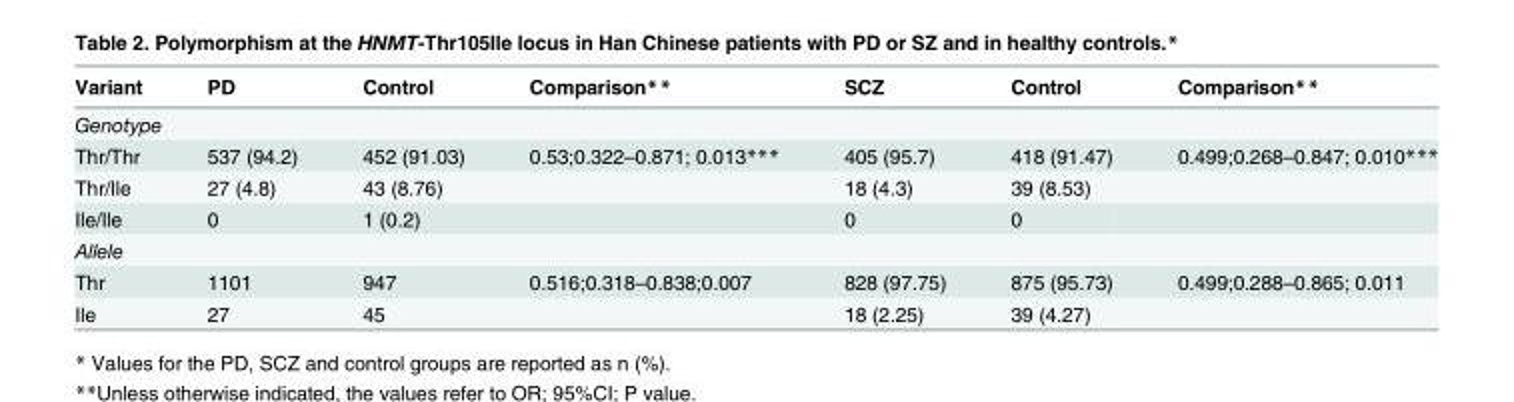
<table><thead><tr><td>Variant</td><td>PD</td><td>Control</td><td>Comparison**</td><td>SCZ</td><td>Control</td><td>Comparison**</td></tr></thead><tbody><tr><td colspan="7">Genotype</td></tr><tr><td>Thr/Thr</td><td>537 (94.2)</td><td>452 (91.03)</td><td>0.53;0.322–0.871; 0.013***</td><td>405 (95.7)</td><td>418 (91.47)</td><td>0.499;0.268–0.847; 0.010***</td></tr><tr><td>Thr/Ile</td><td>27 (4.8)</td><td>43 (8.76)</td><td></td><td>18 (4.3)</td><td>39 (8.53)</td><td></td></tr><tr><td>Ile/Ile</td><td>0</td><td>1 (0.2)</td><td></td><td>0</td><td>0</td><td></td></tr><tr><td colspan="7">Allele</td></tr><tr><td>Thr</td><td>1101</td><td>947</td><td>0.516;0.318–0.838;0.007</td><td>828 (97.75)</td><td>875 (95.73)</td><td>0.499;0.288–0.865; 0.011</td></tr><tr><td>Ile</td><td>27</td><td>45</td><td></td><td>18 (2.25)</td><td>39 (4.27)</td><td></td></tr></tbody></table>